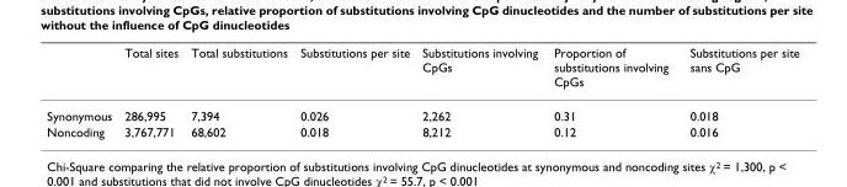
<table><thead><tr><td></td><td>Total sites</td><td>Total substitutions</td><td>Substitutions per site</td><td>Substitutions involving CpGs</td><td>Proportion of substitutions involving CpGs</td><td>Substitutions per site sans CpG</td></tr></thead><tbody><tr><td>Synonymous</td><td>286,995</td><td>7,394</td><td>0.026</td><td>2,262</td><td>0.31</td><td>0.018</td></tr><tr><td>Noncoding</td><td>3,767,771</td><td>68,602</td><td>0.018</td><td>8,212</td><td>0.12</td><td>0.016</td></tr></tbody></table>